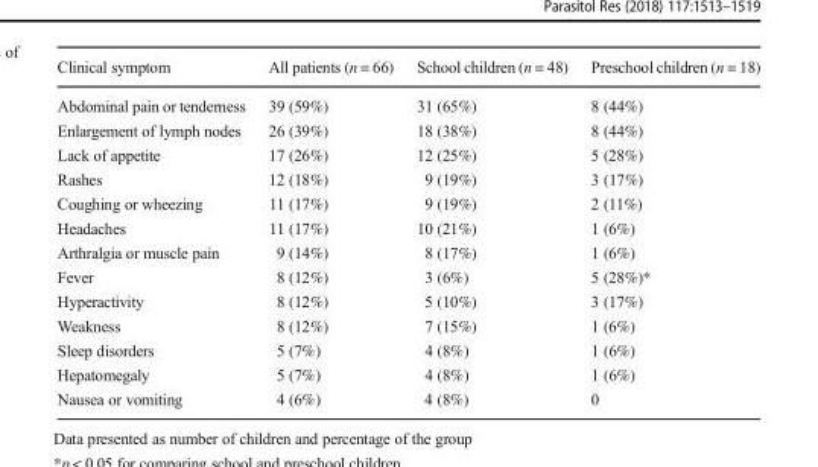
<table><thead><tr><td>Clinical symptom</td><td>All patients (n = 66)</td><td>School children (n = 48)</td><td>Preschool children (n = 18)</td></tr></thead><tbody><tr><td>Abdominal pain or tenderness</td><td>39 (59%)</td><td>31 (65%)</td><td>8 (44%)</td></tr><tr><td>Enlargement of lymph nodes</td><td>26 (39%)</td><td>18 (38%)</td><td>8 (44%)</td></tr><tr><td>Lack of appetite</td><td>17 (26%)</td><td>12 (25%)</td><td>5 (28%)</td></tr><tr><td>Rashes</td><td>12 (18%)</td><td>9 (19%)</td><td>3 (17%)</td></tr><tr><td>Coughing or wheezing</td><td>11 (17%)</td><td>9 (19%)</td><td>2 (11%)</td></tr><tr><td>Headaches</td><td>11 (17%)</td><td>10 (21%)</td><td>1 (6%)</td></tr><tr><td>Arthralgia or muscle pain</td><td>9 (14%)</td><td>8 (17%)</td><td>1 (6%)</td></tr><tr><td>Fever</td><td>8 (12%)</td><td>3 (6%)</td><td>5 (28%)*</td></tr><tr><td>Hyperactivity</td><td>8 (12%)</td><td>5 (10%)</td><td>3 (17%)</td></tr><tr><td>Weakness</td><td>8 (12%)</td><td>7 (15%)</td><td>1 (6%)</td></tr><tr><td>Sleep disorders</td><td>5 (7%)</td><td>4 (8%)</td><td>1 (6%)</td></tr><tr><td>Hepatomegaly</td><td>5 (7%)</td><td>4 (8%)</td><td>1 (6%)</td></tr><tr><td>Nausea or vomiting</td><td>4 (6%)</td><td>4 (8%)</td><td>0</td></tr></tbody></table>